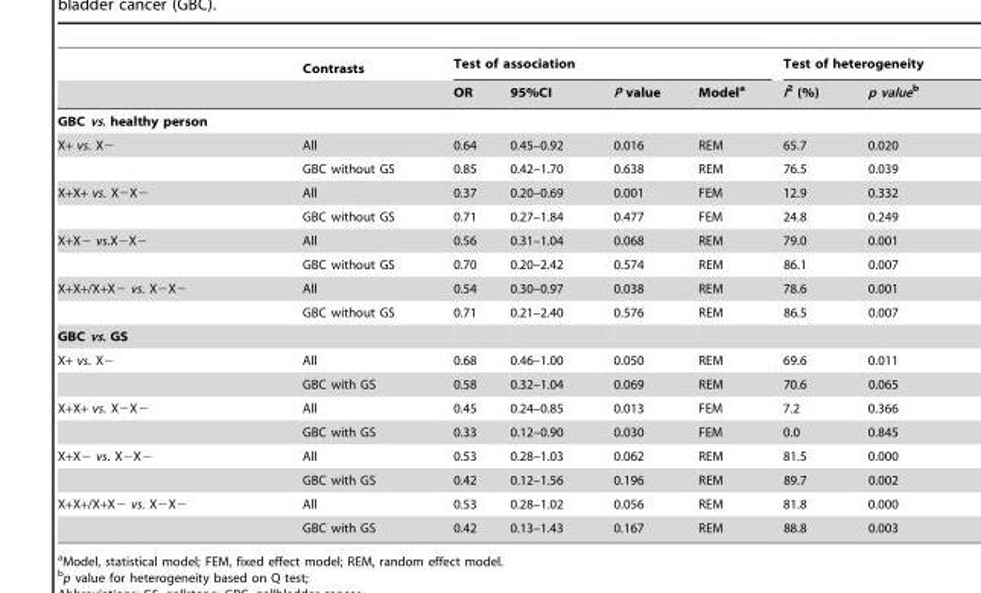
<table><thead><tr><td rowspan="2"></td><td rowspan="2">Contrasts</td><td colspan="4">Test of association</td><td colspan="2">Test of heterogeneity</td></tr><tr><td>OR</td><td>95%CI</td><td>P value</td><td>Model<sup>a</sup></td><td>I<sup>2</sup> (%)</td><td>p valueb</td></tr></thead><tbody><tr><td colspan="8">GBC vs. healthy person</td></tr><tr><td rowspan="2">X+ vs. X−</td><td>All</td><td>0.64</td><td>0.45–0.92</td><td>0.016</td><td>REM</td><td>65.7</td><td>0.020</td></tr><tr><td>GBC without GS</td><td>0.85</td><td>0.42–1.70</td><td>0.638</td><td>REM</td><td>76.5</td><td>0.039</td></tr><tr><td rowspan="2">X+X+ vs. X−X−</td><td>All</td><td>0.37</td><td>0.20–0.69</td><td>0.001</td><td>FEM</td><td>12.9</td><td>0.332</td></tr><tr><td>GBC without GS</td><td>0.71</td><td>0.27–1.84</td><td>0.477</td><td>FEM</td><td>24.8</td><td>0.249</td></tr><tr><td rowspan="2">X+X− vs.X−X−</td><td>All</td><td>0.56</td><td>0.31–1.04</td><td>0.068</td><td>REM</td><td>79.0</td><td>0.001</td></tr><tr><td>GBC without GS</td><td>0.70</td><td>0.20–2.42</td><td>0.574</td><td>REM</td><td>86.1</td><td>0.007</td></tr><tr><td rowspan="2">X+X+/X+X− vs. X−X−</td><td>All</td><td>0.54</td><td>0.30–0.97</td><td>0.038</td><td>REM</td><td>78.6</td><td>0.001</td></tr><tr><td>GBC without GS</td><td>0.71</td><td>0.21–2.40</td><td>0.576</td><td>REM</td><td>86.5</td><td>0.007</td></tr><tr><td colspan="8">GBC vs. GS</td></tr><tr><td rowspan="2">X+ vs. X−</td><td>All</td><td>0.68</td><td>0.46–1.00</td><td>0.050</td><td>REM</td><td>69.6</td><td>0.011</td></tr><tr><td>GBC with GS</td><td>0.58</td><td>0.32–1.04</td><td>0.069</td><td>REM</td><td>70.6</td><td>0.065</td></tr><tr><td rowspan="2">X+X+ vs. X−X−</td><td>All</td><td>0.45</td><td>0.24–0.85</td><td>0.013</td><td>FEM</td><td>7.2</td><td>0.366</td></tr><tr><td>GBC with GS</td><td>0.33</td><td>0.12–0.90</td><td>0.030</td><td>FEM</td><td>0.0</td><td>0.845</td></tr><tr><td rowspan="2">X+X− vs. X−X−</td><td>All</td><td>0.53</td><td>0.28–1.03</td><td>0.062</td><td>REM</td><td>81.5</td><td>0.000</td></tr><tr><td>GBC with GS</td><td>0.42</td><td>0.12–1.56</td><td>0.196</td><td>REM</td><td>89.7</td><td>0.002</td></tr><tr><td rowspan="2">X+X+/X+X− vs. X−X−</td><td>All</td><td>0.53</td><td>0.28–1.02</td><td>0.056</td><td>REM</td><td>81.8</td><td>0.000</td></tr><tr><td>GBC with GS</td><td>0.42</td><td>0.13–1.43</td><td>0.167</td><td>REM</td><td>88.8</td><td>0.003</td></tr></tbody></table>